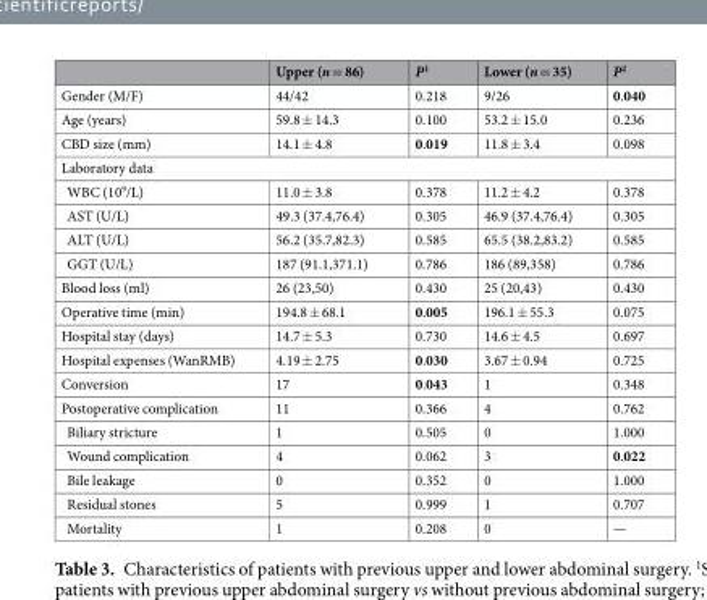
<table><thead><tr><td></td><td>Upper (n = 86)</td><td>P<sup>1</sup></td><td>Lower (n = 35)</td><td>P<sup>2</sup></td></tr></thead><tbody><tr><td>Gender (M/F)</td><td>44/42</td><td>0.218</td><td>9/26</td><td>0.040</td></tr><tr><td>Age (years)</td><td>59.8 ± 14.3</td><td>0.100</td><td>53.2 ± 15.0</td><td>0.236</td></tr><tr><td>CBD size (mm)</td><td>14.1 ± 4.8</td><td>0.019</td><td>11.8 ± 3.4</td><td>0.098</td></tr><tr><td colspan="5">Laboratory data</td></tr><tr><td>WBC (10<sup>9</sup>/L)</td><td>11.0 ± 3.8</td><td>0.378</td><td>11.2 ± 4.2</td><td>0.378</td></tr><tr><td>AST (U/L)</td><td>49.3 (37.4,76.4)</td><td>0.305</td><td>46.9 (37.4,76.4)</td><td>0.305</td></tr><tr><td>ALT (U/L)</td><td>56.2 (35.7,82.3)</td><td>0.585</td><td>65.5 (38.2,83.2)</td><td>0.585</td></tr><tr><td>GGT (U/L)</td><td>187 (91.1,371.1)</td><td>0.786</td><td>186 (89,358)</td><td>0.786</td></tr><tr><td>Blood loss (ml)</td><td>26 (23,50)</td><td>0.430</td><td>25 (20,43)</td><td>0.430</td></tr><tr><td>Operative time (min)</td><td>194.8 ± 68.1</td><td>0.005</td><td>196.1 ± 55.3</td><td>0.075</td></tr><tr><td>Hospital stay (days)</td><td>14.7 ± 5.3</td><td>0.730</td><td>14.6 ± 4.5</td><td>0.697</td></tr><tr><td>Hospital expenses (WanRMB)</td><td>4.19 ± 2.75</td><td>0.030</td><td>3.67 ± 0.94</td><td>0.725</td></tr><tr><td>Conversion</td><td>17</td><td>0.043</td><td>1</td><td>0.348</td></tr><tr><td>Postoperative complication</td><td>11</td><td>0.366</td><td>4</td><td>0.762</td></tr><tr><td>Biliary stricture</td><td>1</td><td>0.505</td><td>0</td><td>1.000</td></tr><tr><td>Wound complication</td><td>4</td><td>0.062</td><td>3</td><td>0.022</td></tr><tr><td>Bile leakage</td><td>0</td><td>0.352</td><td>0</td><td>1.000</td></tr><tr><td>Residual stones</td><td>5</td><td>0.999</td><td>1</td><td>0.707</td></tr><tr><td>Mortality</td><td>1</td><td>0.208</td><td>0</td><td>—</td></tr></tbody></table>